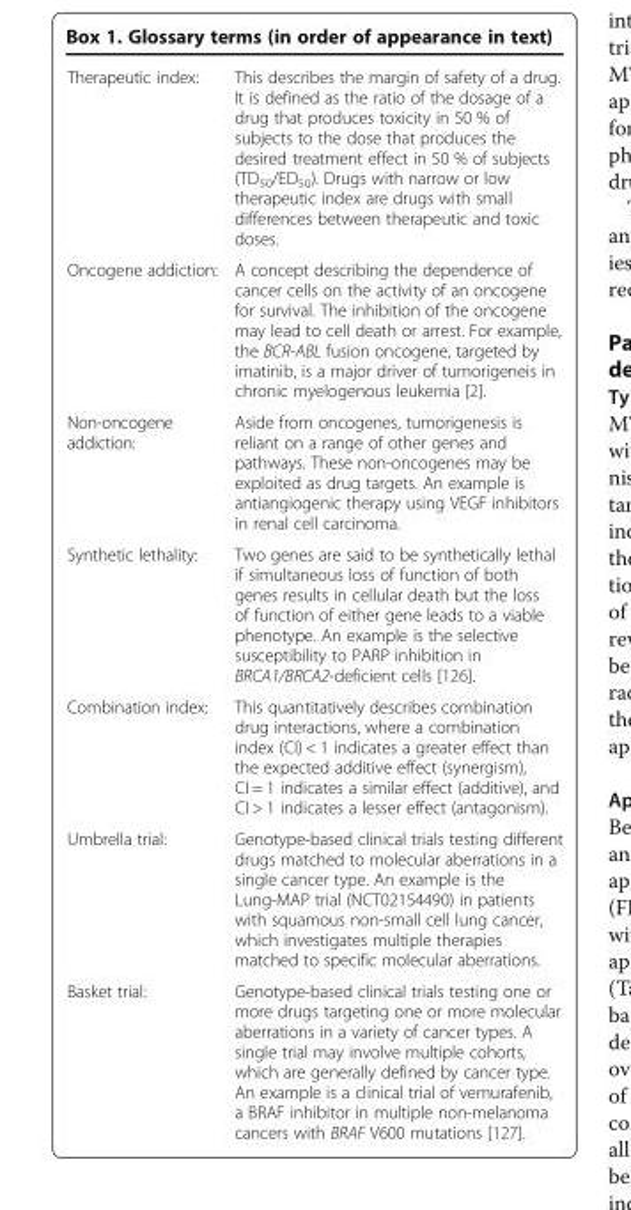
<table><tbody><tr><td>Therapeutic index:</td><td>This describes the margin of safety of a drug. It is defined as the ratio of the dosage of a drug that produces toxicity in 50 % of subjects to the dose that produces the desired treatment effect in 50 % of subjects (TD<sub>50</sub>/ED<sub>50</sub>). Drugs with narrow or low therapeutic index are drugs with small differences between therapeutic and toxic doses.</td></tr><tr><td>Oncogene addiction:</td><td>A concept describing the dependence of cancer cells on the activity of an oncogene for survival. The inhibition of the oncogene may lead to cell death or arrest. For example, the BCR-ABL fusion oncogene, targeted by imatinib, is a major driver of tumorigeneis in chronic myelogenous leukemia [2].</td></tr><tr><td>Non-oncogene addiction:</td><td>Aside from oncogenes, tumorigenesis is reliant on a range of other genes and pathways. These non-oncogenes may be exploited as drug targets. An example is antiangiogenic therapy using VEGF inhibitors in renal cell carcinoma.</td></tr><tr><td>Synthetic lethality:</td><td>Two genes are said to be synthetically lethal if simultaneous loss of function of both genes results in cellular death but the loss of function of either gene leads to a viable phenotype. An example is the selective susceptibility to PARP inhibition in BRCA1/BRCA2-deficient cells [126].</td></tr><tr><td>Combination index:</td><td>This quantitatively describes combination drug interactions, where a combination index (CI) &lt; 1 indicates a greater effect than the expected additive effect (synergism), CI = 1 indicates a similar effect (additive), and CI &gt; 1 indicates a lesser effect (antagonism).</td></tr><tr><td>Umbrella trial:</td><td>Genotype-based clinical trials testing different drugs matched to molecular aberrations in a single cancer type. An example is the Lung-MAP trial (NCT02154490) in patients with squamous non-small cell lung cancer, which investigates multiple therapies matched to specific molecular aberrations.</td></tr><tr><td>Basket trial:</td><td>Genotype-based clinical trials testing one or more drugs targeting one or more molecular aberrations in a variety of cancer types. A single trial may involve multiple cohorts, which are generally defined by cancer type. An example is a clinical trial of vemurafenib, a BRAF inhibitor in multiple non-melanoma cancers with BRAF V600 mutations [127].</td></tr></tbody></table>